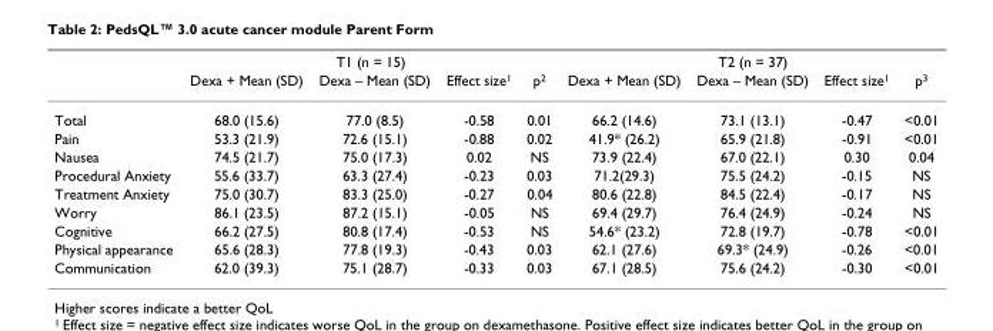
<table><thead><tr><td rowspan="2"></td><td colspan="4">T1 (n = 15)</td><td colspan="4">T2 (n = 37)</td></tr><tr><td>Dexa + Mean (SD)</td><td>Dexa – Mean (SD)</td><td>Effect size<sup>1</sup></td><td>p<sup>2</sup></td><td>Dexa + Mean (SD)</td><td>Dexa – Mean (SD)</td><td>Effect size<sup>1</sup></td><td>p<sup>3</sup></td></tr></thead><tbody><tr><td>Total</td><td>68.0 (15.6)</td><td>77.0 (8.5)</td><td>-0.58</td><td>0.01</td><td>66.2 (14.6)</td><td>73.1 (13.1)</td><td>-0.47</td><td>&lt;0.01</td></tr><tr><td>Pain</td><td>53.3 (21.9)</td><td>72.6 (15.1)</td><td>-0.88</td><td>0.02</td><td>41.9* (26.2)</td><td>65.9 (21.8)</td><td>-0.91</td><td>&lt;0.01</td></tr><tr><td>Nausea</td><td>74.5 (21.7)</td><td>75.0 (17.3)</td><td>0.02</td><td>NS</td><td>73.9 (22.4)</td><td>67.0 (22.1)</td><td>0.30</td><td>0.04</td></tr><tr><td>Procedural Anxiety</td><td>55.6 (33.7)</td><td>63.3 (27.4)</td><td>-0.23</td><td>0.03</td><td>71.2(29.3)</td><td>75.5 (24.2)</td><td>-0.15</td><td>NS</td></tr><tr><td>Treatment Anxiety</td><td>75.0 (30.7)</td><td>83.3 (25.0)</td><td>-0.27</td><td>0.04</td><td>80.6 (22.8)</td><td>84.5 (22.4)</td><td>-0.17</td><td>NS</td></tr><tr><td>Worry</td><td>86.1 (23.5)</td><td>87.2 (15.1)</td><td>-0.05</td><td>NS</td><td>69.4 (29.7)</td><td>76.4 (24.9)</td><td>-0.24</td><td>NS</td></tr><tr><td>Cognitive</td><td>66.2 (27.5)</td><td>80.8 (17.4)</td><td>-0.53</td><td>NS</td><td>54.6* (23.2)</td><td>72.8 (19.7)</td><td>-0.78</td><td>&lt;0.01</td></tr><tr><td>Physical appearance</td><td>65.6 (28.3)</td><td>77.8 (19.3)</td><td>-0.43</td><td>0.03</td><td>62.1 (27.6)</td><td>69.3* (24.9)</td><td>-0.26</td><td>&lt;0.01</td></tr><tr><td>Communication</td><td>62.0 (39.3)</td><td>75.1 (28.7)</td><td>-0.33</td><td>0.03</td><td>67.1 (28.5)</td><td>75.6 (24.2)</td><td>-0.30</td><td>&lt;0.01</td></tr></tbody></table>